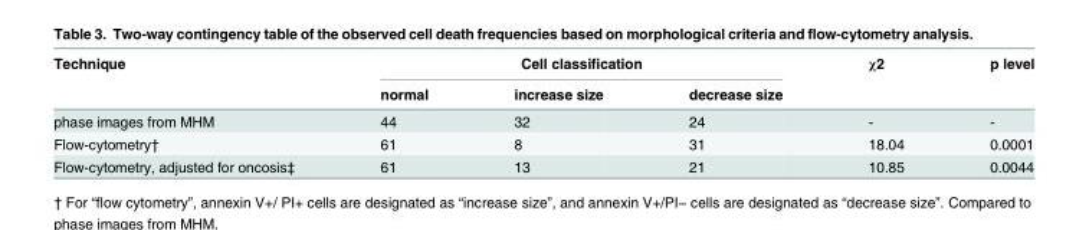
<table><thead><tr><td rowspan="2">Technique</td><td colspan="3">Cell classification</td><td rowspan="2">χ2</td><td rowspan="2">p level</td></tr><tr><td>normal</td><td>increase size</td><td>decrease size</td></tr></thead><tbody><tr><td>phase images from MHM</td><td>44</td><td>32</td><td>24</td><td>-</td><td>-</td></tr><tr><td>Flow-cytometry†</td><td>61</td><td>8</td><td>31</td><td>18.04</td><td>0.0001</td></tr><tr><td>Flow-cytometry, adjusted for oncosis‡</td><td>61</td><td>13</td><td>21</td><td>10.85</td><td>0.0044</td></tr></tbody></table>